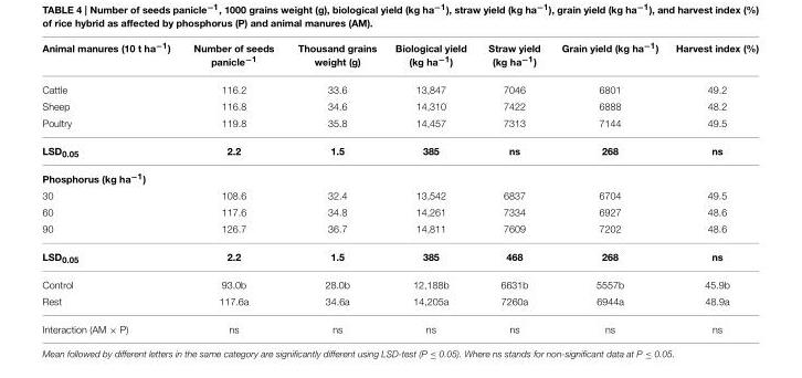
<table><thead><tr><td>Animal manures (10 t ha<sup>−1</sup>)</td><td>Number of seeds panicle<sup>−1</sup></td><td>Thousand grains weight (g)</td><td>Biological yield (kg ha<sup>−1</sup>)</td><td>Straw yield (kg ha<sup>−1</sup>)</td><td>Grain yield (kg ha<sup>−1</sup>)</td><td>Harvest index (%)</td></tr></thead><tbody><tr><td>Cattle</td><td>116.2</td><td>33.6</td><td>13,847</td><td>7046</td><td>6801</td><td>49.2</td></tr><tr><td>Sheep</td><td>116.8</td><td>34.6</td><td>14,310</td><td>7422</td><td>6888</td><td>48.2</td></tr><tr><td>Poultry</td><td>119.8</td><td>35.8</td><td>14,457</td><td>7313</td><td>7144</td><td>49.5</td></tr><tr><td>LSD<sub>0.05</sub></td><td>2.2</td><td>1.5</td><td>385</td><td>ns</td><td>268</td><td>ns</td></tr><tr><td colspan="7">Phosphorus (kg ha<sup>−1</sup>)</td></tr><tr><td>30</td><td>108.6</td><td>32.4</td><td>13,542</td><td>6837</td><td>6704</td><td>49.5</td></tr><tr><td>60</td><td>117.6</td><td>34.8</td><td>14,261</td><td>7334</td><td>6927</td><td>48.6</td></tr><tr><td>90</td><td>126.7</td><td>36.7</td><td>14,811</td><td>7609</td><td>7202</td><td>48.6</td></tr><tr><td>LSD<sub>0.05</sub></td><td>2.2</td><td>1.5</td><td>385</td><td>468</td><td>268</td><td>ns</td></tr><tr><td>Control</td><td>93.0b</td><td>28.0b</td><td>12,188b</td><td>6631b</td><td>5557b</td><td>45.9b</td></tr><tr><td>Rest</td><td>117.6a</td><td>34.6a</td><td>14,205a</td><td>7260a</td><td>6944a</td><td>48.9a</td></tr><tr><td>Interaction (AM × P)</td><td>ns</td><td>ns</td><td>ns</td><td>ns</td><td>ns</td><td>ns</td></tr></tbody></table>